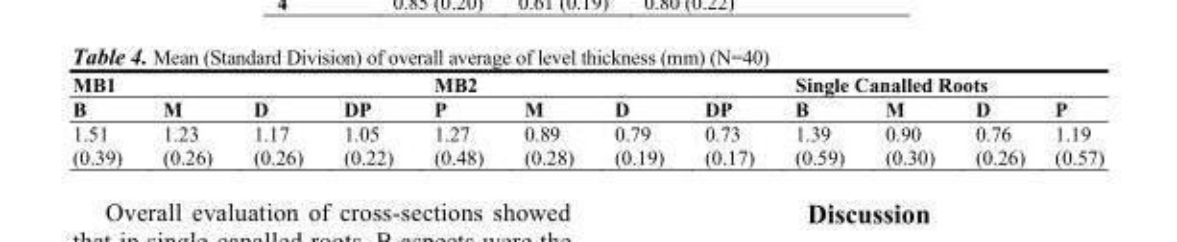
<table><thead><tr><td colspan="4">MB1</td><td colspan="4">MB2</td><td colspan="4">Single Canalled Roots</td></tr><tr><td>B</td><td>M</td><td>D</td><td>DP</td><td>P</td><td>M</td><td>D</td><td>DP</td><td>B</td><td>M</td><td>D</td><td>P</td></tr></thead><tbody><tr><td>1.51 (0.39)</td><td>1.23 (0.26)</td><td>1.17 (0.26)</td><td>1.05 (0.22)</td><td>1.27 (0.48)</td><td>0.89 (0.28)</td><td>0.79 (0.19)</td><td>0.73 (0.17)</td><td>1.39 (0.59)</td><td>0.90 (0.30)</td><td>0.76 (0.26)</td><td>1.19 (0.57)</td></tr></tbody></table>